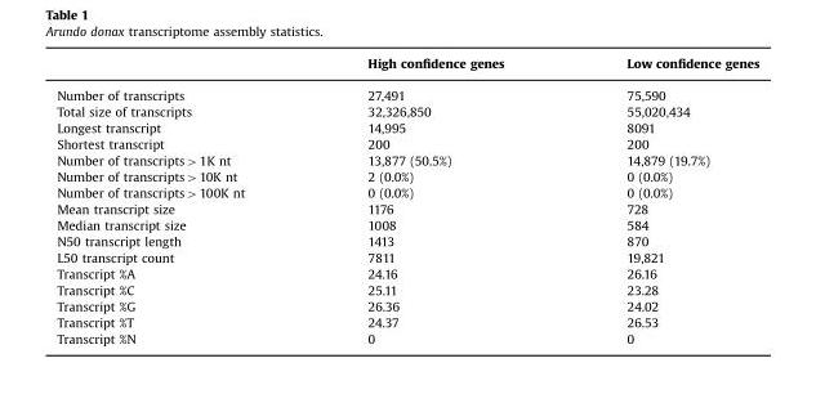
<table><thead><tr><td></td><td>High confidence genes</td><td>Low confidence genes</td></tr></thead><tbody><tr><td>Number of transcripts</td><td>27,491</td><td>75,590</td></tr><tr><td>Total size of transcripts</td><td>32,326,850</td><td>55,020,434</td></tr><tr><td>Longest transcript</td><td>14,995</td><td>8091</td></tr><tr><td>Shortest transcript</td><td>200</td><td>200</td></tr><tr><td>Number of transcripts&gt;1K nt</td><td>13,877 (50.5%)</td><td>14,879 (19.7%)</td></tr><tr><td>Number of transcripts&gt;10K nt</td><td>2 (0.0%)</td><td>0 (0.0%)</td></tr><tr><td>Number of transcripts&gt;100K nt</td><td>0 (0.0%)</td><td>0 (0.0%)</td></tr><tr><td>Mean transcript size</td><td>1176</td><td>728</td></tr><tr><td>Median transcript size</td><td>1008</td><td>584</td></tr><tr><td>N50 transcript length</td><td>1413</td><td>870</td></tr><tr><td>L50 transcript count</td><td>7811</td><td>19,821</td></tr><tr><td>Transcript %A</td><td>24.16</td><td>26.16</td></tr><tr><td>Transcript %C</td><td>25.11</td><td>23.28</td></tr><tr><td>Transcript %G</td><td>26.36</td><td>24.02</td></tr><tr><td>Transcript %T</td><td>24.37</td><td>26.53</td></tr><tr><td>Transcript %N</td><td>0</td><td>0</td></tr></tbody></table>